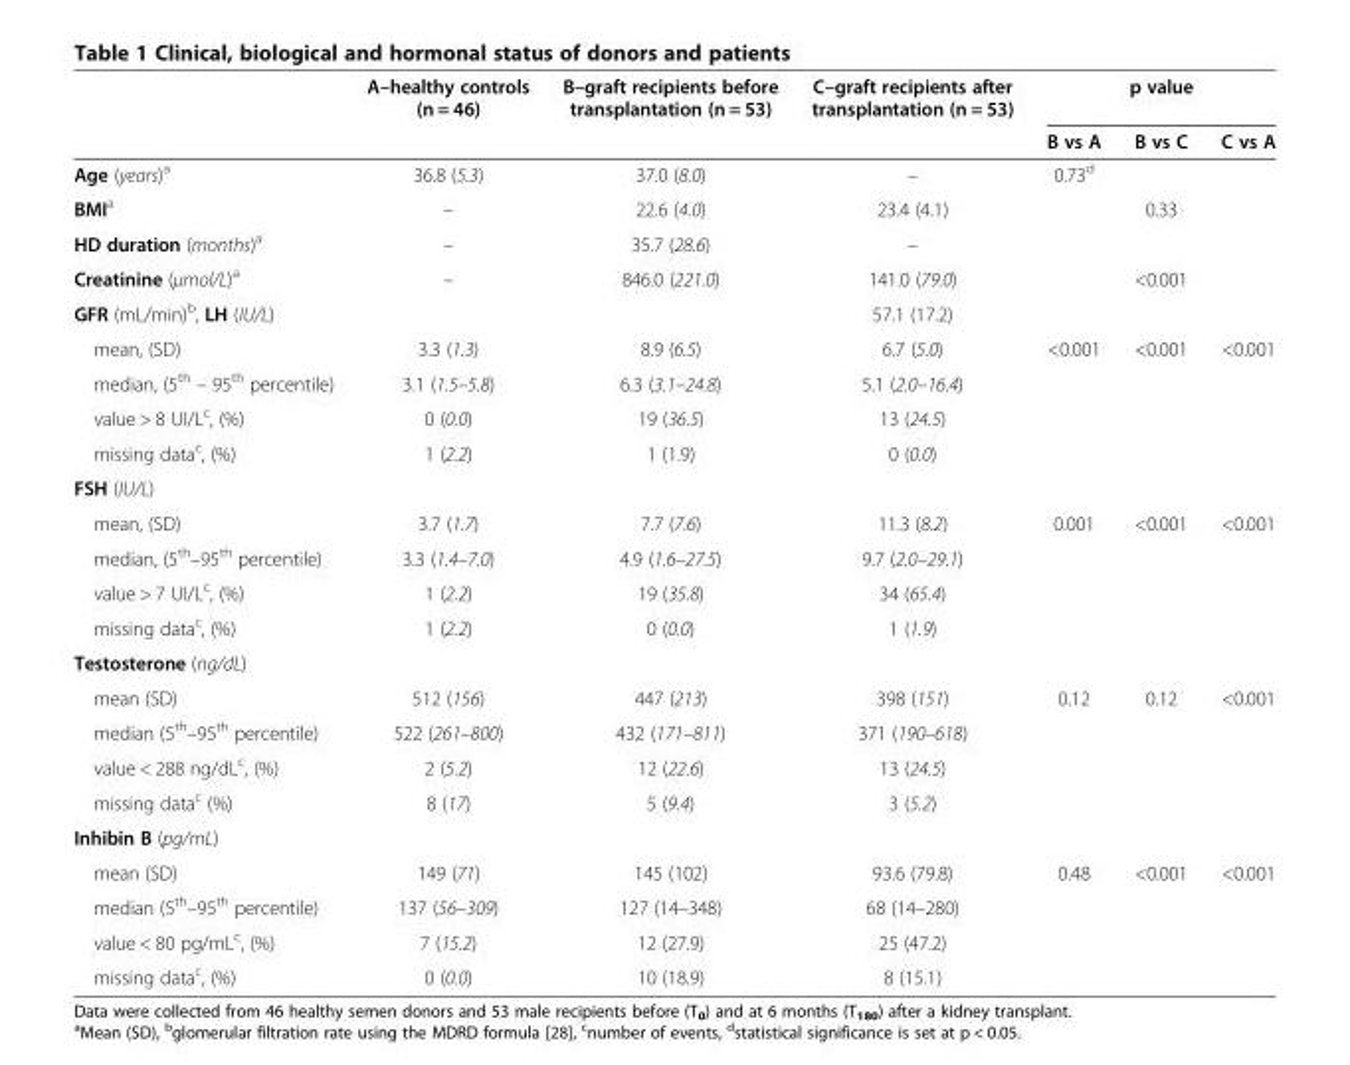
<table><thead><tr><td rowspan="2"></td><td rowspan="2">A–healthy controls (n = 46)</td><td rowspan="2">B–graft recipients before transplantation (n = 53)</td><td rowspan="2">C–graft recipients after transplantation (n = 53)</td><td colspan="3">p value</td></tr><tr><td>B vs A</td><td>B vs C</td><td>C vs A</td></tr></thead><tbody><tr><td>Age (years)<sup>a</sup></td><td>36.8 (5.3)</td><td>37.0 (8.0)</td><td>–</td><td>0.73<sup>d</sup></td><td></td><td></td></tr><tr><td>BMI<sup>a</sup></td><td>–</td><td>22.6 (4.0)</td><td>23.4 (4.1)</td><td></td><td>0.33</td><td></td></tr><tr><td>HD duration (months)<sup>a</sup></td><td>–</td><td>35.7 (28.6)</td><td>–</td><td></td><td></td><td></td></tr><tr><td>Creatinine (μmol/L)<sup>a</sup></td><td>–</td><td>846.0 (221.0)</td><td>141.0 (79.0)</td><td></td><td>&lt;0.001</td><td></td></tr><tr><td>GFR (mL/min)<sup>b</sup>, LH (IU/L)</td><td></td><td></td><td>57.1 (17.2)</td><td></td><td></td><td></td></tr><tr><td>mean, (SD)</td><td>3.3 (1.3)</td><td>8.9 (6.5)</td><td>6.7 (5.0)</td><td>&lt;0.001</td><td>&lt;0.001</td><td>&lt;0.001</td></tr><tr><td>median, (5<sup>th</sup> – 95<sup>th</sup> percentile)</td><td>3.1 (1.5–5.8)</td><td>6.3 (3.1–24.8)</td><td>5.1 (2.0–16.4)</td><td></td><td></td><td></td></tr><tr><td>value &gt; 8 UI/L<sup>c</sup>, (%)</td><td>0 (0.0)</td><td>19 (36.5)</td><td>13 (24.5)</td><td></td><td></td><td></td></tr><tr><td>missing data<sup>c</sup>, (%)</td><td>1 (2.2)</td><td>1 (1.9)</td><td>0 (0.0)</td><td></td><td></td><td></td></tr><tr><td colspan="7">FSH (IU/L)</td></tr><tr><td>mean, (SD)</td><td>3.7 (1.7)</td><td>7.7 (7.6)</td><td>11.3 (8.2)</td><td>0.001</td><td>&lt;0.001</td><td>&lt;0.001</td></tr><tr><td>median, (5<sup>th</sup>–95<sup>th</sup> percentile)</td><td>3.3 (1.4–7.0)</td><td>4.9 (1.6–27.5)</td><td>9.7 (2.0–29.1)</td><td></td><td></td><td></td></tr><tr><td>value &gt; 7 UI/L<sup>c</sup>, (%)</td><td>1 (2.2)</td><td>19 (35.8)</td><td>34 (65.4)</td><td></td><td></td><td></td></tr><tr><td>missing data<sup>c</sup>, (%)</td><td>1 (2.2)</td><td>0 (0.0)</td><td>1 (1.9)</td><td></td><td></td><td></td></tr><tr><td colspan="7">Testosterone (ng/dL)</td></tr><tr><td>mean (SD)</td><td>512 (156)</td><td>447 (213)</td><td>398 (151)</td><td>0.12</td><td>0.12</td><td>&lt;0.001</td></tr><tr><td>median (5<sup>th</sup>–95<sup>th</sup> percentile)</td><td>522 (261–800)</td><td>432 (171–811)</td><td>371 (190–618)</td><td></td><td></td><td></td></tr><tr><td>value &lt; 288 ng/dL<sup>c</sup>, (%)</td><td>2 (5.2)</td><td>12 (22.6)</td><td>13 (24.5)</td><td></td><td></td><td></td></tr><tr><td>missing data<sup>c</sup> (%)</td><td>8 (17)</td><td>5 (9.4)</td><td>3 (5.2)</td><td></td><td></td><td></td></tr><tr><td colspan="7">Inhibin B (pg/mL)</td></tr><tr><td>mean (SD)</td><td>149 (71)</td><td>145 (102)</td><td>93.6 (79.8)</td><td>0.48</td><td>&lt;0.001</td><td>&lt;0.001</td></tr><tr><td>median (5<sup>th</sup>–95<sup>th</sup> percentile)</td><td>137 (56–309)</td><td>127 (14–348)</td><td>68 (14–280)</td><td></td><td></td><td></td></tr><tr><td>value &lt; 80 pg/mL<sup>c</sup>, (%)</td><td>7 (15.2)</td><td>12 (27.9)</td><td>25 (47.2)</td><td></td><td></td><td></td></tr><tr><td>missing data<sup>c</sup>, (%)</td><td>0 (0.0)</td><td>10 (18.9)</td><td>8 (15.1)</td><td></td><td></td><td></td></tr></tbody></table>